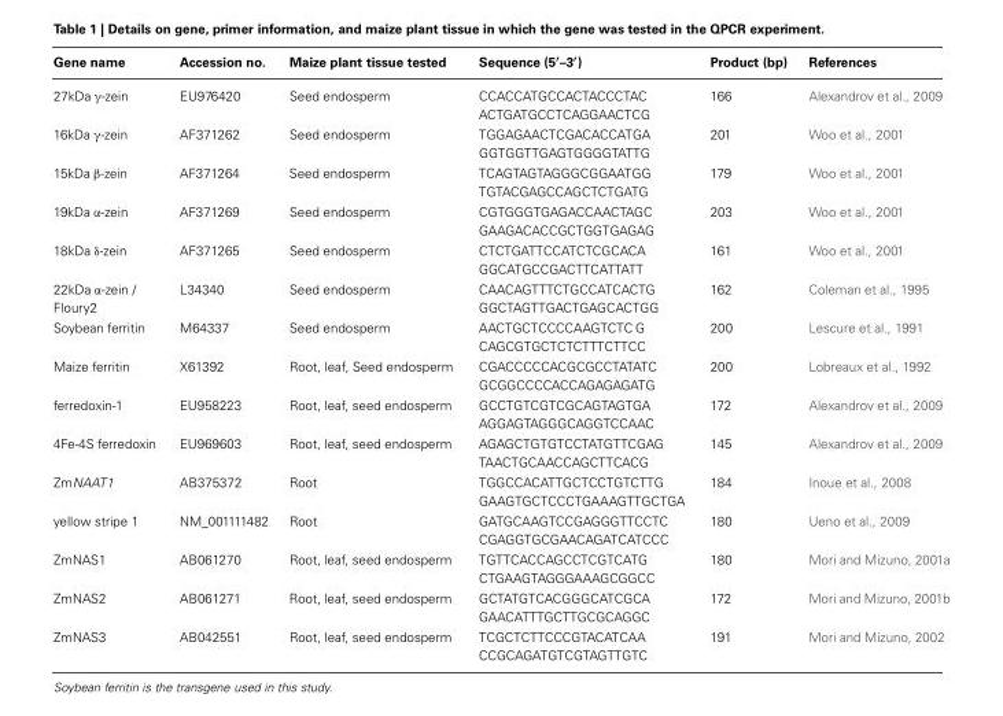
<table><thead><tr><td>Gene name</td><td>Accession no.</td><td>Maize plant tissue tested</td><td>Sequence (5′–3′)</td><td>Product (bp)</td><td>References</td></tr></thead><tbody><tr><td>27kDa γ-zein</td><td>EU976420</td><td>Seed endosperm</td><td>CCACCATGCCACTACCCTAC ACTGATGCCTCAGGAACTCG</td><td>166</td><td>Alexandrov et al., 2009</td></tr><tr><td>16kDa γ-zein</td><td>AF371262</td><td>Seed endosperm</td><td>TGGAGAACTCGACACCATGA GGTGGTTGAGTGGGGTATTG</td><td>201</td><td>Woo et al., 2001</td></tr><tr><td>15kDa β-zein</td><td>AF371264</td><td>Seed endosperm</td><td>TCAGTAGTAGGGCGGAATGG TGTACGAGCCAGCTCTGATG</td><td>179</td><td>Woo et al., 2001</td></tr><tr><td>19kDa α-zein</td><td>AF371269</td><td>Seed endosperm</td><td>CGTGGGTGAGACCAACTAGC GAAGACACCGCTGGTGAGAG</td><td>203</td><td>Woo et al., 2001</td></tr><tr><td>18kDa δ-zein</td><td>AF371265</td><td>Seed endosperm</td><td>CTCTGATTCCATCTCGCACA GGCATGCCGACTTCATTATT</td><td>161</td><td>Woo et al., 2001</td></tr><tr><td>22kDa α-zein / Floury2</td><td>L34340</td><td>Seed endosperm</td><td>CAACAGTTTCTGCCATCACTG GGCTAGTTGACTGAGCACTGG</td><td>162</td><td>Coleman et al., 1995</td></tr><tr><td>Soybean ferritin</td><td>M64337</td><td>Seed endosperm</td><td>AACTGCTCCCCAAGTCTC G CAGCGTGCTCTCTTTCTTCC</td><td>200</td><td>Lescure et al., 1991</td></tr><tr><td>Maize ferritin</td><td>X61392</td><td>Root, leaf, Seed endosperm</td><td>CGACCCCCACGCGCCTATATC GCGGCCCCACCAGAGAGATG</td><td>200</td><td>Lobreaux et al., 1992</td></tr><tr><td>ferredoxin-1</td><td>EU958223</td><td>Root, leaf, seed endosperm</td><td>GCCTGTCGTCGCAGTAGTGA AGGAGTAGGGCAGGTCCAAC</td><td>172</td><td>Alexandrov et al., 2009</td></tr><tr><td>4Fe-4S ferredoxin</td><td>EU969603</td><td>Root, leaf, seed endosperm</td><td>AGAGCTGTGTCCTATGTTCGAG TAACTGCAACCAGCTTCACG</td><td>145</td><td>Alexandrov et al., 2009</td></tr><tr><td>ZmNAAT1</td><td>AB375372</td><td>Root</td><td>TGGCCACATTGCTCCTGTCTTG GAAGTGCTCCCTGAAAGTTGCTGA</td><td>184</td><td>Inoue et al., 2008</td></tr><tr><td>yellow stripe 1</td><td>NM_001111482</td><td>Root</td><td>GATGCAAGTCCGAGGGTTCCTC CGAGGTGCGAACAGATCATCCC</td><td>180</td><td>Ueno et al., 2009</td></tr><tr><td>ZmNAS1</td><td>AB061270</td><td>Root, leaf, seed endosperm</td><td>TGTTCACCAGCCTCGTCATG CTGAAGTAGGGAAAGCGGCC</td><td>180</td><td>Mori and Mizuno, 2001a</td></tr><tr><td>ZmNAS2</td><td>AB061271</td><td>Root, leaf, seed endosperm</td><td>GCTATGTCACGGGCATCGCA GAACATTTGCTTGCGCAGGC</td><td>172</td><td>Mori and Mizuno, 2001b</td></tr><tr><td>ZmNAS3</td><td>AB042551</td><td>Root, leaf, seed endosperm</td><td>TCGCTCTTCCCGTACATCAA CCGCAGATGTCGTAGTTGTC</td><td>191</td><td>Mori and Mizuno, 2002</td></tr></tbody></table>